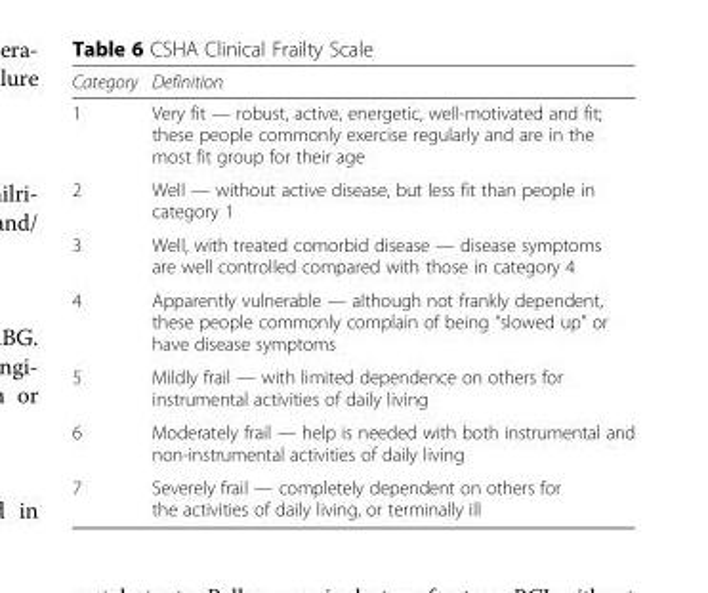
<table><thead><tr><td>Category</td><td>Definition</td></tr></thead><tbody><tr><td>1</td><td>Very fit — robust, active, energetic, well-motivated and fit; these people commonly exercise regularly and are in the most fit group for their age</td></tr><tr><td>2</td><td>Well — without active disease, but less fit than people in category 1</td></tr><tr><td>3</td><td>Well, with treated comorbid disease — disease symptoms are well controlled compared with those in category 4</td></tr><tr><td>4</td><td>Apparently vulnerable — although not frankly dependent, these people commonly complain of being “slowed up” or have disease symptoms</td></tr><tr><td>5</td><td>Mildly frail — with limited dependence on others for instrumental activities of daily living</td></tr><tr><td>6</td><td>Moderately frail — help is needed with both instrumental and non-instrumental activities of daily living</td></tr><tr><td>7</td><td>Severely frail — completely dependent on others for the activities of daily living, or terminally ill</td></tr></tbody></table>